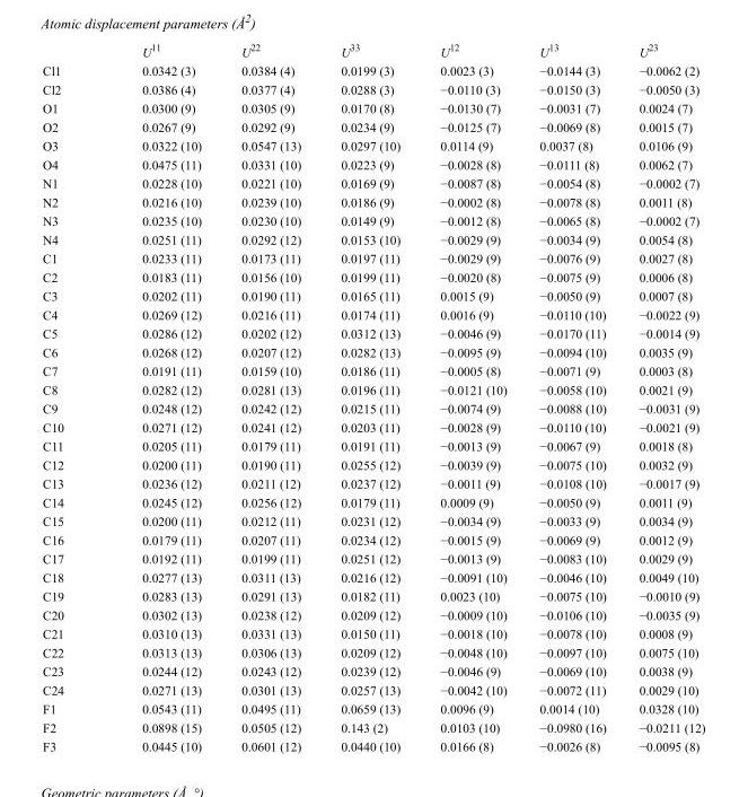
<table><thead><tr><td></td><td>U<sup>11</sup></td><td>U<sup>22</sup></td><td>U<sup>33</sup></td><td>U<sup>12</sup></td><td>U<sup>13</sup></td><td>U<sup>23</sup></td></tr></thead><tbody><tr><td>Cl1</td><td>0.0342 (3)</td><td>0.0384 (4)</td><td>0.0199 (3)</td><td>0.0023 (3)</td><td>−0.0144 (3)</td><td>−0.0062 (2)</td></tr><tr><td>Cl2</td><td>0.0386 (4)</td><td>0.0377 (4)</td><td>0.0288 (3)</td><td>−0.0110 (3)</td><td>−0.0150 (3)</td><td>−0.0050 (3)</td></tr><tr><td>O1</td><td>0.0300 (9)</td><td>0.0305 (9)</td><td>0.0170 (8)</td><td>−0.0130 (7)</td><td>−0.0031 (7)</td><td>0.0024 (7)</td></tr><tr><td>O2</td><td>0.0267 (9)</td><td>0.0292 (9)</td><td>0.0234 (9)</td><td>−0.0125 (7)</td><td>−0.0069 (8)</td><td>0.0015 (7)</td></tr><tr><td>O3</td><td>0.0322 (10)</td><td>0.0547 (13)</td><td>0.0297 (10)</td><td>0.0114 (9)</td><td>0.0037 (8)</td><td>0.0106 (9)</td></tr><tr><td>O4</td><td>0.0475 (11)</td><td>0.0331 (10)</td><td>0.0223 (9)</td><td>−0.0028 (8)</td><td>−0.0111 (8)</td><td>0.0062 (7)</td></tr><tr><td>N1</td><td>0.0228 (10)</td><td>0.0221 (10)</td><td>0.0169 (9)</td><td>−0.0087 (8)</td><td>−0.0054 (8)</td><td>−0.0002 (7)</td></tr><tr><td>N2</td><td>0.0216 (10)</td><td>0.0239 (10)</td><td>0.0186 (9)</td><td>−0.0002 (8)</td><td>−0.0078 (8)</td><td>0.0011 (8)</td></tr><tr><td>N3</td><td>0.0235 (10)</td><td>0.0230 (10)</td><td>0.0149 (9)</td><td>−0.0012 (8)</td><td>−0.0065 (8)</td><td>−0.0002 (7)</td></tr><tr><td>N4</td><td>0.0251 (11)</td><td>0.0292 (12)</td><td>0.0153 (10)</td><td>−0.0029 (9)</td><td>−0.0034 (9)</td><td>0.0054 (8)</td></tr><tr><td>C1</td><td>0.0233 (11)</td><td>0.0173 (11)</td><td>0.0197 (11)</td><td>−0.0029 (9)</td><td>−0.0076 (9)</td><td>0.0027 (8)</td></tr><tr><td>C2</td><td>0.0183 (11)</td><td>0.0156 (10)</td><td>0.0199 (11)</td><td>−0.0020 (8)</td><td>−0.0075 (9)</td><td>0.0006 (8)</td></tr><tr><td>C3</td><td>0.0202 (11)</td><td>0.0190 (11)</td><td>0.0165 (11)</td><td>0.0015 (9)</td><td>−0.0050 (9)</td><td>0.0007 (8)</td></tr><tr><td>C4</td><td>0.0269 (12)</td><td>0.0216 (11)</td><td>0.0174 (11)</td><td>0.0016 (9)</td><td>−0.0110 (10)</td><td>−0.0022 (9)</td></tr><tr><td>C5</td><td>0.0286 (12)</td><td>0.0202 (12)</td><td>0.0312 (13)</td><td>−0.0046 (9)</td><td>−0.0170 (11)</td><td>−0.0014 (9)</td></tr><tr><td>C6</td><td>0.0268 (12)</td><td>0.0207 (12)</td><td>0.0282 (13)</td><td>−0.0095 (9)</td><td>−0.0094 (10)</td><td>0.0035 (9)</td></tr><tr><td>C7</td><td>0.0191 (11)</td><td>0.0159 (10)</td><td>0.0186 (11)</td><td>−0.0005 (8)</td><td>−0.0071 (9)</td><td>0.0003 (8)</td></tr><tr><td>C8</td><td>0.0282 (12)</td><td>0.0281 (13)</td><td>0.0196 (11)</td><td>−0.0121 (10)</td><td>−0.0058 (10)</td><td>0.0021 (9)</td></tr><tr><td>C9</td><td>0.0248 (12)</td><td>0.0242 (12)</td><td>0.0215 (11)</td><td>−0.0074 (9)</td><td>−0.0088 (10)</td><td>−0.0031 (9)</td></tr><tr><td>C10</td><td>0.0271 (12)</td><td>0.0241 (12)</td><td>0.0203 (11)</td><td>−0.0028 (9)</td><td>−0.0110 (10)</td><td>−0.0021 (9)</td></tr><tr><td>C11</td><td>0.0205 (11)</td><td>0.0179 (11)</td><td>0.0191 (11)</td><td>−0.0013 (9)</td><td>−0.0067 (9)</td><td>0.0018 (8)</td></tr><tr><td>C12</td><td>0.0200 (11)</td><td>0.0190 (11)</td><td>0.0255 (12)</td><td>−0.0039 (9)</td><td>−0.0075 (10)</td><td>0.0032 (9)</td></tr><tr><td>C13</td><td>0.0236 (12)</td><td>0.0211 (12)</td><td>0.0237 (12)</td><td>−0.0011 (9)</td><td>−0.0108 (10)</td><td>−0.0017 (9)</td></tr><tr><td>C14</td><td>0.0245 (12)</td><td>0.0256 (12)</td><td>0.0179 (11)</td><td>0.0009 (9)</td><td>−0.0050 (9)</td><td>0.0011 (9)</td></tr><tr><td>C15</td><td>0.0200 (11)</td><td>0.0212 (11)</td><td>0.0231 (12)</td><td>−0.0034 (9)</td><td>−0.0033 (9)</td><td>0.0034 (9)</td></tr><tr><td>C16</td><td>0.0179 (11)</td><td>0.0207 (11)</td><td>0.0234 (12)</td><td>−0.0015 (9)</td><td>−0.0069 (9)</td><td>0.0012 (9)</td></tr><tr><td>C17</td><td>0.0192 (11)</td><td>0.0199 (11)</td><td>0.0251 (12)</td><td>−0.0013 (9)</td><td>−0.0083 (10)</td><td>0.0029 (9)</td></tr><tr><td>C18</td><td>0.0277 (13)</td><td>0.0311 (13)</td><td>0.0216 (12)</td><td>−0.0091 (10)</td><td>−0.0046 (10)</td><td>0.0049 (10)</td></tr><tr><td>C19</td><td>0.0283 (13)</td><td>0.0291 (13)</td><td>0.0182 (11)</td><td>0.0023 (10)</td><td>−0.0075 (10)</td><td>−0.0010 (9)</td></tr><tr><td>C20</td><td>0.0302 (13)</td><td>0.0238 (12)</td><td>0.0209 (12)</td><td>−0.0009 (10)</td><td>−0.0106 (10)</td><td>−0.0035 (9)</td></tr><tr><td>C21</td><td>0.0310 (13)</td><td>0.0331 (13)</td><td>0.0150 (11)</td><td>−0.0018 (10)</td><td>−0.0078 (10)</td><td>0.0008 (9)</td></tr><tr><td>C22</td><td>0.0313 (13)</td><td>0.0306 (13)</td><td>0.0209 (12)</td><td>−0.0048 (10)</td><td>−0.0097 (10)</td><td>0.0075 (10)</td></tr><tr><td>C23</td><td>0.0244 (12)</td><td>0.0243 (12)</td><td>0.0239 (12)</td><td>−0.0046 (9)</td><td>−0.0069 (10)</td><td>0.0038 (9)</td></tr><tr><td>C24</td><td>0.0271 (13)</td><td>0.0301 (13)</td><td>0.0257 (13)</td><td>−0.0042 (10)</td><td>−0.0072 (11)</td><td>0.0029 (10)</td></tr><tr><td>F1</td><td>0.0543 (11)</td><td>0.0495 (11)</td><td>0.0659 (13)</td><td>0.0096 (9)</td><td>0.0014 (10)</td><td>0.0328 (10)</td></tr><tr><td>F2</td><td>0.0898 (15)</td><td>0.0505 (12)</td><td>0.143 (2)</td><td>0.0103 (10)</td><td>−0.0980 (16)</td><td>−0.0211 (12)</td></tr><tr><td>F3</td><td>0.0445 (10)</td><td>0.0601 (12)</td><td>0.0440 (10)</td><td>0.0166 (8)</td><td>−0.0026 (8)</td><td>−0.0095 (8)</td></tr></tbody></table>